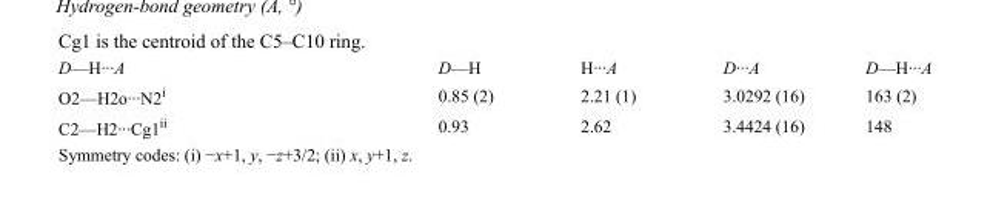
<table><tbody><tr><td>D—H···A</td><td>D—H</td><td>H···A</td><td>D···A</td><td>D—H···A</td></tr><tr><td>O2—H2o···N2<sup>i</sup></td><td>0.85 (2)</td><td>2.21 (1)</td><td>3.0292 (16)</td><td>163 (2)</td></tr><tr><td>C2—H2···Cg1<sup>ii</sup></td><td>0.93</td><td>2.62</td><td>3.4424 (16)</td><td>148</td></tr></tbody></table>